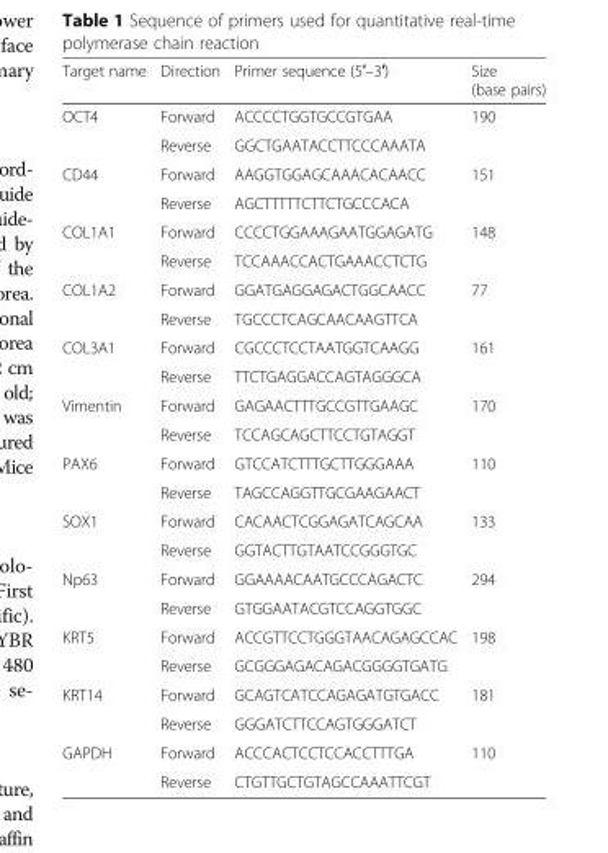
<table><thead><tr><td>Target name</td><td>Direction</td><td>Primer sequence (5′–3′)</td><td>Size (base pairs)</td></tr></thead><tbody><tr><td rowspan="2">OCT4</td><td>Forward</td><td>ACCCCTGGTGCCGTGAA</td><td rowspan="2">190</td></tr><tr><td>Reverse</td><td>GGCTGAATACCTTCCCAAATA</td></tr><tr><td rowspan="2">CD44</td><td>Forward</td><td>AAGGTGGAGCAAACACAACC</td><td rowspan="2">151</td></tr><tr><td>Reverse</td><td>AGCTTTTTCTTCTGCCCACA</td></tr><tr><td rowspan="2">COL1A1</td><td>Forward</td><td>CCCCTGGAAAGAATGGAGATG</td><td rowspan="2">148</td></tr><tr><td>Reverse</td><td>TCCAAACCACTGAAACCTCTG</td></tr><tr><td rowspan="2">COL1A2</td><td>Forward</td><td>GGATGAGGAGACTGGCAACC</td><td rowspan="2">77</td></tr><tr><td>Reverse</td><td>TGCCCTCAGCAACAAGTTCA</td></tr><tr><td rowspan="2">COL3A1</td><td>Forward</td><td>CGCCCTCCTAATGGTCAAGG</td><td rowspan="2">161</td></tr><tr><td>Reverse</td><td>TTCTGAGGACCAGTAGGGCA</td></tr><tr><td rowspan="2">Vimentin</td><td>Forward</td><td>GAGAACTTTGCCGTTGAAGC</td><td rowspan="2">170</td></tr><tr><td>Reverse</td><td>TCCAGCAGCTTCCTGTAGGT</td></tr><tr><td rowspan="2">PAX6</td><td>Forward</td><td>GTCCATCTTTGCTTGGGAAA</td><td rowspan="2">110</td></tr><tr><td>Reverse</td><td>TAGCCAGGTTGCGAAGAACT</td></tr><tr><td rowspan="2">SOX1</td><td>Forward</td><td>CACAACTCGGAGATCAGCAA</td><td rowspan="2">133</td></tr><tr><td>Reverse</td><td>GGTACTTGTAATCCGGGTGC</td></tr><tr><td rowspan="2">Np63</td><td>Forward</td><td>GGAAAACAATGCCCAGACTC</td><td rowspan="2">294</td></tr><tr><td>Reverse</td><td>GTGGAATACGTCCAGGTGGC</td></tr><tr><td rowspan="2">KRT5</td><td>Forward</td><td>ACCGTTCCTGGGTAACAGAGCCAC</td><td rowspan="2">198</td></tr><tr><td>Reverse</td><td>GCGGGAGACAGACGGGGTGATG</td></tr><tr><td rowspan="2">KRT14</td><td>Forward</td><td>GCAGTCATCCAGAGATGTGACC</td><td rowspan="2">181</td></tr><tr><td>Reverse</td><td>GGGATCTTCCAGTGGGATCT</td></tr><tr><td rowspan="2">GAPDH</td><td>Forward</td><td>ACCCACTCCTCCACCTTTGA</td><td rowspan="2">110</td></tr><tr><td>Reverse</td><td>CTGTTGCTGTAGCCAAATTCGT</td></tr></tbody></table>